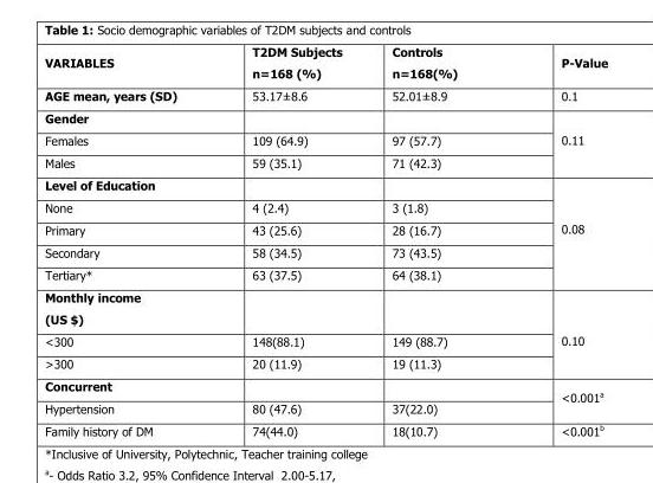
<table><thead><tr><td>VARIABLES</td><td>T2DM Subjects n=168 (%)</td><td>Controls n=168(%)</td><td>P-Value</td></tr></thead><tbody><tr><td>AGE mean, years (SD)</td><td>53.17±8.6</td><td>52.01±8.9</td><td>0.1</td></tr><tr><td colspan="3">Gender</td><td rowspan="3">0.11</td></tr><tr><td>Females</td><td>109 (64.9)</td><td>97 (57.7)</td></tr><tr><td>Males</td><td>59 (35.1)</td><td>71 (42.3)</td></tr><tr><td colspan="3">Level of Education</td><td rowspan="5">0.08</td></tr><tr><td>None</td><td>4 (2.4)</td><td>3 (1.8)</td></tr><tr><td>Primary</td><td>43 (25.6)</td><td>28 (16.7)</td></tr><tr><td>Secondary</td><td>58 (34.5)</td><td>73 (43.5)</td></tr><tr><td>Tertiary*</td><td>63 (37.5)</td><td>64 (38.1)</td></tr><tr><td colspan="3">Monthly income (US $)</td><td rowspan="3">0.10</td></tr><tr><td>&lt;300</td><td>148(88.1)</td><td>149 (88.7)</td></tr><tr><td>&gt;300</td><td>20 (11.9)</td><td>19 (11.3)</td></tr><tr><td colspan="3">Concurrent</td><td rowspan="2">&lt;0.001<sup>a</sup></td></tr><tr><td>Hypertension</td><td>80 (47.6)</td><td>37(22.0)</td></tr><tr><td>Family history of DM</td><td>74(44.0)</td><td>18(10.7)</td><td>&lt;0.001<sup>b</sup></td></tr></tbody></table>